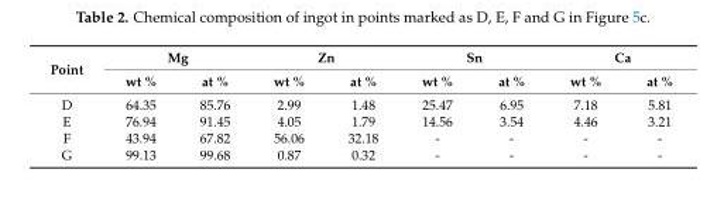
<table><thead><tr><td rowspan="2">Point</td><td colspan="2">Mg</td><td colspan="2">Zn</td><td colspan="2">Sn</td><td colspan="2">Ca</td></tr><tr><td>wt %</td><td>at %</td><td>wt %</td><td>at %</td><td>wt %</td><td>at %</td><td>wt %</td><td>at %</td></tr></thead><tbody><tr><td>D</td><td>64.35</td><td>85.76</td><td>2.99</td><td>1.48</td><td>25.47</td><td>6.95</td><td>7.18</td><td>5.81</td></tr><tr><td>E</td><td>76.94</td><td>91.45</td><td>4.05</td><td>1.79</td><td>14.56</td><td>3.54</td><td>4.46</td><td>3.21</td></tr><tr><td>F</td><td>43.94</td><td>67.82</td><td>56.06</td><td>32.18</td><td>-</td><td>-</td><td>-</td><td>-</td></tr><tr><td>G</td><td>99.13</td><td>99.68</td><td>0.87</td><td>0.32</td><td>-</td><td>-</td><td>-</td><td>-</td></tr></tbody></table>